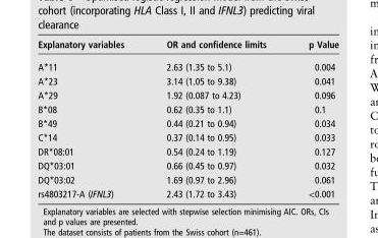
<table><thead><tr><td>Explanatory variables</td><td>OR and confidence limits</td><td>p Value</td></tr></thead><tbody><tr><td>A*11</td><td>2.63 (1.35 to 5.1)</td><td>0.004</td></tr><tr><td>A*23</td><td>3.14 (1.05 to 9.38)</td><td>0.041</td></tr><tr><td>A*29</td><td>1.92 (0.087 to 4.23)</td><td>0.096</td></tr><tr><td>B*08</td><td>0.62 (0.35 to 1.1)</td><td>0.1</td></tr><tr><td>B*49</td><td>0.44 (0.21 to 0.94)</td><td>0.034</td></tr><tr><td>C*14</td><td>0.37 (0.14 to 0.95)</td><td>0.033</td></tr><tr><td>DR*08:01</td><td>0.54 (0.24 to 1.19)</td><td>0.127</td></tr><tr><td>DQ*03:01</td><td>0.66 (0.45 to 0.97)</td><td>0.032</td></tr><tr><td>DQ*03:02</td><td>1.69 (0.97 to 2.96)</td><td>0.061</td></tr><tr><td>rs4803217-A (IFNL3)</td><td>2.43 (1.72 to 3.43)</td><td>&lt;0.001</td></tr></tbody></table>